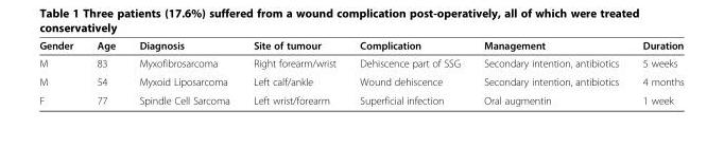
<table><thead><tr><td>Gender</td><td>Age</td><td>Diagnosis</td><td>Site of tumour</td><td>Complication</td><td>Management</td><td>Duration</td></tr></thead><tbody><tr><td>M</td><td>83</td><td>Myxofibrosarcoma</td><td>Right forearm/wrist</td><td>Dehiscence part of SSG</td><td>Secondary intention, antibiotics</td><td>5 weeks</td></tr><tr><td>M</td><td>54</td><td>Myxoid Liposarcoma</td><td>Left calf/ankle</td><td>Wound dehiscence</td><td>Secondary intention, antibiotics</td><td>4 months</td></tr><tr><td>F</td><td>77</td><td>Spindle Cell Sarcoma</td><td>Left wrist/forearm</td><td>Superficial infection</td><td>Oral augmentin</td><td>1 week</td></tr></tbody></table>